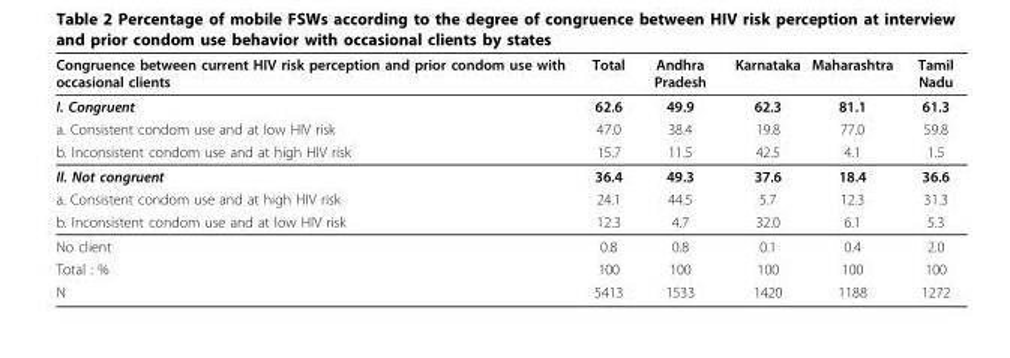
<table><thead><tr><td>Congruence between current HIV risk perception and prior condom use with occasional clients</td><td>Total</td><td>Andhra Pradesh</td><td>Karnataka</td><td>Maharashtra</td><td>Tamil Nadu</td></tr></thead><tbody><tr><td>I. Congruent</td><td>62.6</td><td>49.9</td><td>62.3</td><td>81.1</td><td>61.3</td></tr><tr><td>a. Consistent condom use and at low HIV risk</td><td>47.0</td><td>38.4</td><td>19.8</td><td>77.0</td><td>59.8</td></tr><tr><td>b. Inconsistent condom use and at high HIV risk</td><td>15.7</td><td>11.5</td><td>42.5</td><td>4.1</td><td>1.5</td></tr><tr><td>II. Not congruent</td><td>36.4</td><td>49.3</td><td>37.6</td><td>18.4</td><td>36.6</td></tr><tr><td>a. Consistent condom use and at high HIV risk</td><td>24.1</td><td>44.5</td><td>5.7</td><td>12.3</td><td>31.3</td></tr><tr><td>b. Inconsistent condom use and at low HIV risk</td><td>12.3</td><td>4.7</td><td>32.0</td><td>6.1</td><td>5.3</td></tr><tr><td>No client</td><td>0.8</td><td>0.8</td><td>0.1</td><td>0.4</td><td>2.0</td></tr><tr><td>Total : %</td><td>100</td><td>100</td><td>100</td><td>100</td><td>100</td></tr><tr><td>N</td><td>5413</td><td>1533</td><td>1420</td><td>1188</td><td>1272</td></tr></tbody></table>